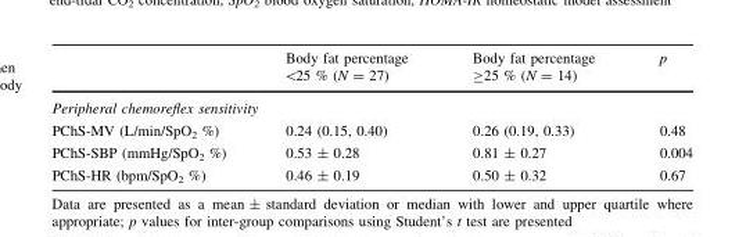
<table><thead><tr><td></td><td>Body fat percentage &lt;25 % (N = 27)</td><td>Body fat percentage ≥25 % (N = 14)</td><td>p</td></tr></thead><tbody><tr><td colspan="4">Peripheral chemoreflex sensitivity</td></tr><tr><td>PChS-MV (L/min/SpO<sub>2</sub> %)</td><td>0.24 (0.15, 0.40)</td><td>0.26 (0.19, 0.33)</td><td>0.48</td></tr><tr><td>PChS-SBP (mmHg/SpO<sub>2</sub> %)</td><td>0.53 ± 0.28</td><td>0.81 ± 0.27</td><td>0.004</td></tr><tr><td>PChS-HR (bpm/SpO<sub>2</sub> %)</td><td>0.46 ± 0.19</td><td>0.50 ± 0.32</td><td>0.67</td></tr></tbody></table>